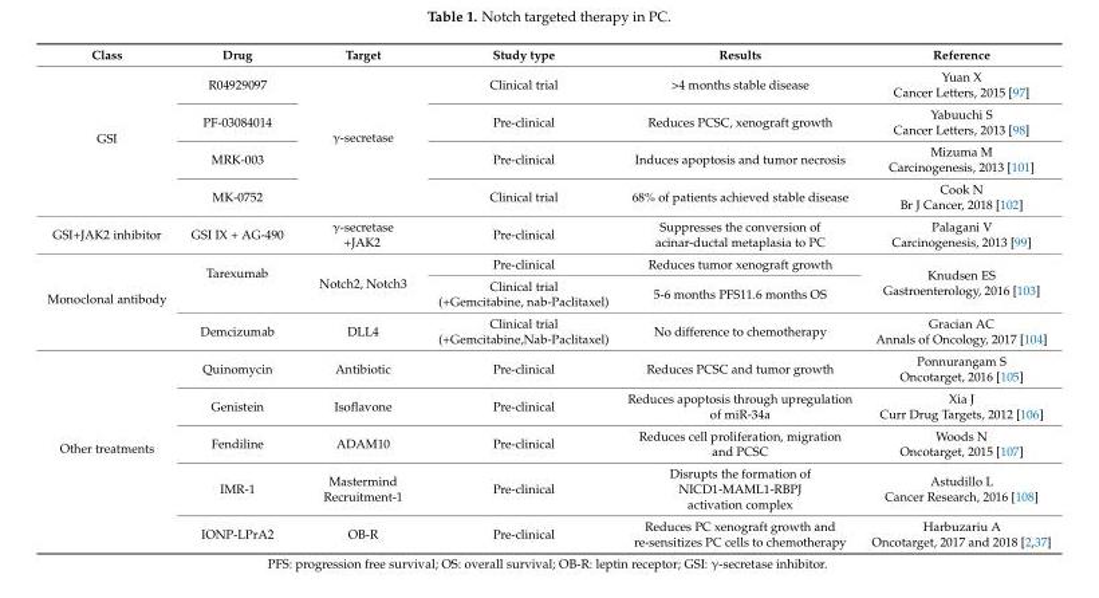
<table><thead><tr><td>Class</td><td>Drug</td><td>Target</td><td>Study type</td><td>Results</td><td>Reference</td></tr></thead><tbody><tr><td rowspan="4">GSI</td><td>R04929097</td><td rowspan="4">γ-secretase</td><td>Clinical trial</td><td>&gt;4 months stable disease</td><td>Yuan X Cancer Letters, 2015 [97]</td></tr><tr><td>PF-03084014</td><td>Pre-clinical</td><td>Reduces PCSC, xenograft growth</td><td>Yabuuchi S Cancer Letters, 2013 [98]</td></tr><tr><td>MRK-003</td><td>Pre-clinical</td><td>Induces apoptosis and tumor necrosis</td><td>Mizuma M Carcinogenesis, 2013 [101]</td></tr><tr><td>MK-0752</td><td>Clinical trial</td><td>68% of patients achieved stable disease</td><td>Cook N Br J Cancer, 2018 [102]</td></tr><tr><td>GSI+JAK2 inhibitor</td><td>GSI IX + AG-490</td><td>γ-secretase +JAK2</td><td>Pre-clinical</td><td>Suppresses the conversion of acinar-ductal metaplasia to PC</td><td>Palagani V Carcinogenesis, 2013 [99]</td></tr><tr><td rowspan="3">Monoclonal antibody</td><td rowspan="2">Tarexumab</td><td rowspan="2">Notch2, Notch3</td><td>Pre-clinical</td><td>Reduces tumor xenograft growth</td><td rowspan="2">Knudsen ES Gastroenterology, 2016 [103]</td></tr><tr><td>Clinical trial (+Gemcitabine, nab-Paclitaxel)</td><td>5-6 months PFS11.6 months OS</td></tr><tr><td>Demcizumab</td><td>DLL4</td><td>Clinical trial (+Gemcitabine,Nab-Paclitaxel)</td><td>No difference to chemotherapy</td><td>Gracian AC Annals of Oncology, 2017 [104]</td></tr><tr><td rowspan="5">Other treatments</td><td>Quinomycin</td><td>Antibiotic</td><td>Pre-clinical</td><td>Reduces PCSC and tumor growth</td><td>Ponnurangam S Oncotarget, 2016 [105]</td></tr><tr><td>Genistein</td><td>Isoflavone</td><td>Pre-clinical</td><td>Reduces apoptosis through upregulation of miR-34a</td><td>Xia J Curr Drug Targets, 2012 [106]</td></tr><tr><td>Fendiline</td><td>ADAM10</td><td>Pre-clinical</td><td>Reduces cell proliferation, migration and PCSC</td><td>Woods N Oncotarget, 2015 [107]</td></tr><tr><td>IMR-1</td><td>Mastermind Recruitment-1</td><td>Pre-clinical</td><td>Disrupts the formation of NICD1-MAML1-RBPJ activation complex</td><td>Astudillo L Cancer Research, 2016 [108]</td></tr><tr><td>IONP-LPrA2</td><td>OB-R</td><td>Pre-clinical</td><td>Reduces PC xenograft growth and re-sensitizes PC cells to chemotherapy</td><td>Harbuzariu A Oncotarget, 2017 and 2018 [2,37]</td></tr></tbody></table>